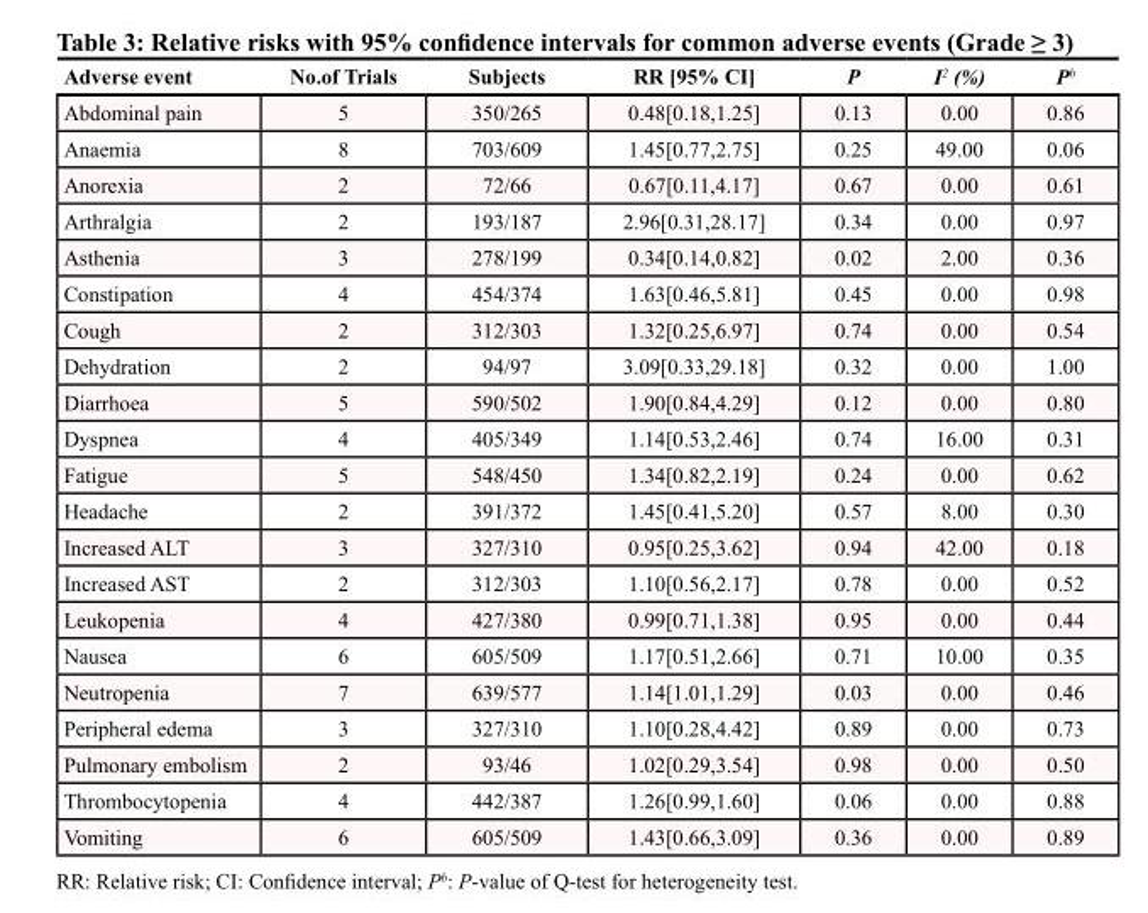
<table><thead><tr><td>Adverse event</td><td>No.of Trials</td><td>Subjects</td><td>RR [95% CI]</td><td>P</td><td>I<sup>2</sup> (%)</td><td>P<sup>b</sup></td></tr></thead><tbody><tr><td>Abdominal pain</td><td>5</td><td>350/265</td><td>0.48[0.18,1.25]</td><td>0.13</td><td>0.00</td><td>0.86</td></tr><tr><td>Anaemia</td><td>8</td><td>703/609</td><td>1.45[0.77,2.75]</td><td>0.25</td><td>49.00</td><td>0.06</td></tr><tr><td>Anorexia</td><td>2</td><td>72/66</td><td>0.67[0.11,4.17]</td><td>0.67</td><td>0.00</td><td>0.61</td></tr><tr><td>Arthralgia</td><td>2</td><td>193/187</td><td>2.96[0.31,28.17]</td><td>0.34</td><td>0.00</td><td>0.97</td></tr><tr><td>Asthenia</td><td>3</td><td>278/199</td><td>0.34[0.14,0.82]</td><td>0.02</td><td>2.00</td><td>0.36</td></tr><tr><td>Constipation</td><td>4</td><td>454/374</td><td>1.63[0.46,5.81]</td><td>0.45</td><td>0.00</td><td>0.98</td></tr><tr><td>Cough</td><td>2</td><td>312/303</td><td>1.32[0.25,6.97]</td><td>0.74</td><td>0.00</td><td>0.54</td></tr><tr><td>Dehydration</td><td>2</td><td>94/97</td><td>3.09[0.33,29.18]</td><td>0.32</td><td>0.00</td><td>1.00</td></tr><tr><td>Diarrhoea</td><td>5</td><td>590/502</td><td>1.90[0.84,4.29]</td><td>0.12</td><td>0.00</td><td>0.80</td></tr><tr><td>Dyspnea</td><td>4</td><td>405/349</td><td>1.14[0.53,2.46]</td><td>0.74</td><td>16.00</td><td>0.31</td></tr><tr><td>Fatigue</td><td>5</td><td>548/450</td><td>1.34[0.82,2.19]</td><td>0.24</td><td>0.00</td><td>0.62</td></tr><tr><td>Headache</td><td>2</td><td>391/372</td><td>1.45[0.41,5.20]</td><td>0.57</td><td>8.00</td><td>0.30</td></tr><tr><td>Increased ALT</td><td>3</td><td>327/310</td><td>0.95[0.25,3.62]</td><td>0.94</td><td>42.00</td><td>0.18</td></tr><tr><td>Increased AST</td><td>2</td><td>312/303</td><td>1.10[0.56,2.17]</td><td>0.78</td><td>0.00</td><td>0.52</td></tr><tr><td>Leukopenia</td><td>4</td><td>427/380</td><td>0.99[0.71,1.38]</td><td>0.95</td><td>0.00</td><td>0.44</td></tr><tr><td>Nausea</td><td>6</td><td>605/509</td><td>1.17[0.51,2.66]</td><td>0.71</td><td>10.00</td><td>0.35</td></tr><tr><td>Neutropenia</td><td>7</td><td>639/577</td><td>1.14[1.01,1.29]</td><td>0.03</td><td>0.00</td><td>0.46</td></tr><tr><td>Peripheral edema</td><td>3</td><td>327/310</td><td>1.10[0.28,4.42]</td><td>0.89</td><td>0.00</td><td>0.73</td></tr><tr><td>Pulmonary embolism</td><td>2</td><td>93/46</td><td>1.02[0.29,3.54]</td><td>0.98</td><td>0.00</td><td>0.50</td></tr><tr><td>Thrombocytopenia</td><td>4</td><td>442/387</td><td>1.26[0.99,1.60]</td><td>0.06</td><td>0.00</td><td>0.88</td></tr><tr><td>Vomiting</td><td>6</td><td>605/509</td><td>1.43[0.66,3.09]</td><td>0.36</td><td>0.00</td><td>0.89</td></tr></tbody></table>